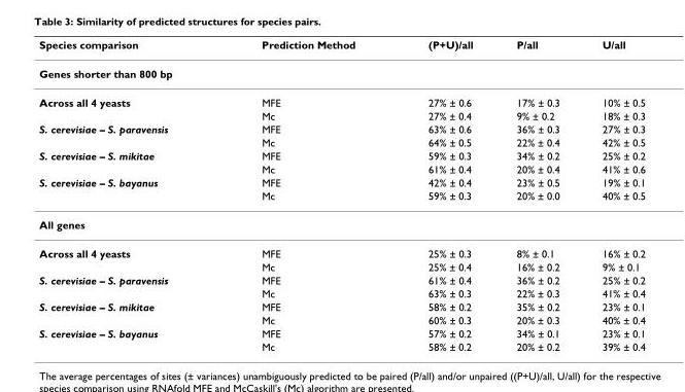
<table><thead><tr><td>Species comparison</td><td>Prediction Method</td><td>(P+U)/all</td><td>P/all</td><td>U/all</td></tr></thead><tbody><tr><td colspan="5">Genes shorter than 800 bp</td></tr><tr><td rowspan="2">Across all 4 yeasts</td><td>MFE</td><td>27% ± 0.6</td><td>17% ± 0.3</td><td>10% ± 0.5</td></tr><tr><td>Mc</td><td>27% ± 0.4</td><td>9% ± 0.2</td><td>18% ± 0.3</td></tr><tr><td rowspan="2">S. cerevisiae – S. paravensis</td><td>MFE</td><td>63% ± 0.6</td><td>36% ± 0.3</td><td>27% ± 0.3</td></tr><tr><td>Mc</td><td>64% ± 0.5</td><td>22% ± 0.4</td><td>42% ± 0.5</td></tr><tr><td rowspan="2">S. cerevisiae – S. mikitae</td><td>MFE</td><td>59% ± 0.3</td><td>34% ± 0.2</td><td>25% ± 0.2</td></tr><tr><td>Mc</td><td>61% ± 0.4</td><td>20% ± 0.4</td><td>41% ± 0.6</td></tr><tr><td rowspan="2">S. cerevisiae – S. bayanus</td><td>MFE</td><td>42% ± 0.4</td><td>23% ± 0.5</td><td>19% ± 0.1</td></tr><tr><td>Mc</td><td>59% ± 0.3</td><td>20% ± 0.0</td><td>40% ± 0.5</td></tr><tr><td colspan="5">All genes</td></tr><tr><td rowspan="2">Across all 4 yeasts</td><td>MFE</td><td>25% ± 0.3</td><td>8% ± 0.1</td><td>16% ± 0.2</td></tr><tr><td>Mc</td><td>25% ± 0.4</td><td>16% ± 0.2</td><td>9% ± 0.1</td></tr><tr><td rowspan="2">S. cerevisiae – S. paravensis</td><td>MFE</td><td>61% ± 0.4</td><td>36% ± 0.2</td><td>25% ± 0.2</td></tr><tr><td>Mc</td><td>63% ± 0.3</td><td>22% ± 0.3</td><td>41% ± 0.4</td></tr><tr><td rowspan="2">S. cerevisiae – S. mikitae</td><td>MFE</td><td>58% ± 0.2</td><td>35% ± 0.2</td><td>23% ± 0.1</td></tr><tr><td>Mc</td><td>60% ± 0.3</td><td>20% ± 0.3</td><td>40% ± 0.4</td></tr><tr><td rowspan="2">S. cerevisiae – S. bayanus</td><td>MFE</td><td>57% ± 0.2</td><td>34% ± 0.1</td><td>23% ± 0.1</td></tr><tr><td>Mc</td><td>58% ± 0.2</td><td>20% ± 0.2</td><td>39% ± 0.4</td></tr></tbody></table>